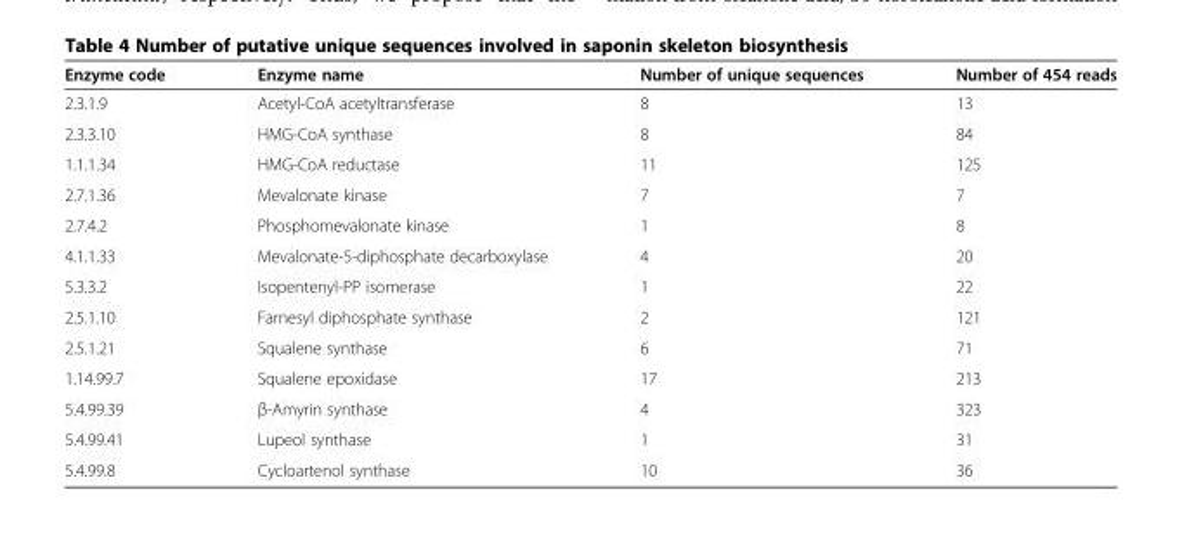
<table><thead><tr><td>Enzyme code</td><td>Enzyme name</td><td>Number of unique sequences</td><td>Number of 454 reads</td></tr></thead><tbody><tr><td>2.3.1.9</td><td>Acetyl-CoA acetyltransferase</td><td>8</td><td>13</td></tr><tr><td>2.3.3.10</td><td>HMG-CoA synthase</td><td>8</td><td>84</td></tr><tr><td>1.1.1.34</td><td>HMG-CoA reductase</td><td>11</td><td>125</td></tr><tr><td>2.7.1.36</td><td>Mevalonate kinase</td><td>7</td><td>7</td></tr><tr><td>2.7.4.2</td><td>Phosphomevalonate kinase</td><td>1</td><td>8</td></tr><tr><td>4.1.1.33</td><td>Mevalonate-5-diphosphate decarboxylase</td><td>4</td><td>20</td></tr><tr><td>5.3.3.2</td><td>Isopentenyl-PP isomerase</td><td>1</td><td>22</td></tr><tr><td>2.5.1.10</td><td>Farnesyl diphosphate synthase</td><td>2</td><td>121</td></tr><tr><td>2.5.1.21</td><td>Squalene synthase</td><td>6</td><td>71</td></tr><tr><td>1.14.99.7</td><td>Squalene epoxidase</td><td>17</td><td>213</td></tr><tr><td>5.4.99.39</td><td>β-Amyrin synthase</td><td>4</td><td>323</td></tr><tr><td>5.4.99.41</td><td>Lupeol synthase</td><td>1</td><td>31</td></tr><tr><td>5.4.99.8</td><td>Cycloartenol synthase</td><td>10</td><td>36</td></tr></tbody></table>